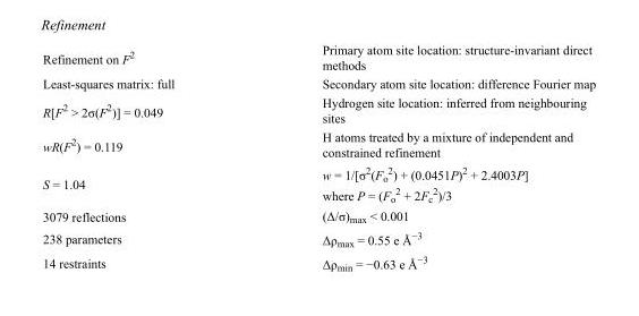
<table><tbody><tr><td>Refinement on F<sup>2</sup></td><td>Primary atom site location: structure-invariant direct methods</td></tr><tr><td>Least-squares matrix: full</td><td>Secondary atom site location: difference Fourier map</td></tr><tr><td>R[F<sup>2</sup> &gt; 2σ(F<sup>2</sup>)] = 0.049</td><td>Hydrogen site location: inferred from neighbouring sites</td></tr><tr><td>wR(F<sup>2</sup>) = 0.119</td><td>H atoms treated by a mixture of independent and constrained refinement</td></tr><tr><td>S = 1.04</td><td>w = 1/[σ<sup>2</sup>(F<sub>o</sub> <sup>2</sup>) + (0.0451P)<sup>2</sup> + 2.4003P] where P = (F<sub>o</sub> <sup>2</sup> + 2F<sub>c</sub> <sup>2</sup>)/3</td></tr><tr><td>3079 reflections</td><td>(Δ/σ)<sub>max</sub> &lt; 0.001</td></tr><tr><td>238 parameters</td><td>Δρ<sub>max</sub> = 0.55 e Å<sup>−3</sup></td></tr><tr><td>14 restraints</td><td>Δρ<sub>min</sub> = −0.63 e Å<sup>−3</sup></td></tr></tbody></table>